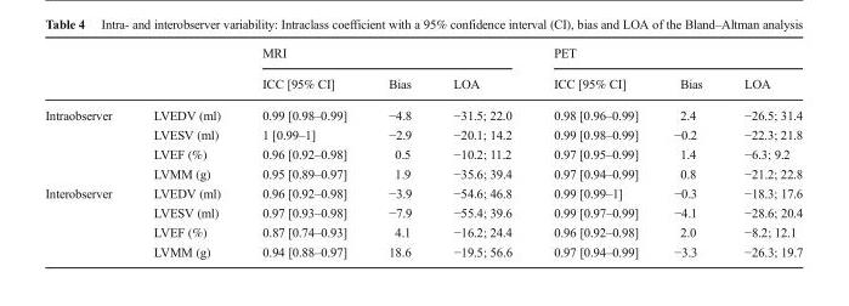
<table><thead><tr><td rowspan="2"></td><td rowspan="2"></td><td colspan="3">MRI</td><td colspan="3">PET</td></tr><tr><td>ICC [95% CI]</td><td>Bias</td><td>LOA</td><td>ICC [95% CI]</td><td>Bias</td><td>LOA</td></tr></thead><tbody><tr><td rowspan="4">Intraobserver</td><td>LVEDV (ml)</td><td>0.99 [0.98–0.99]</td><td>−4.8</td><td>−31.5; 22.0</td><td>0.98 [0.96–0.99]</td><td>2.4</td><td>−26.5; 31.4</td></tr><tr><td>LVESV (ml)</td><td>1 [0.99–1]</td><td>−2.9</td><td>−20.1; 14.2</td><td>0.99 [0.98–0.99]</td><td>−0.2</td><td>−22.3; 21.8</td></tr><tr><td>LVEF (%)</td><td>0.96 [0.92–0.98]</td><td>0.5</td><td>−10.2; 11.2</td><td>0.97 [0.95–0.99]</td><td>1.4</td><td>−6.3; 9.2</td></tr><tr><td>LVMM (g)</td><td>0.95 [0.89–0.97]</td><td>1.9</td><td>−35.6; 39.4</td><td>0.97 [0.94–0.99]</td><td>0.8</td><td>−21.2; 22.8</td></tr><tr><td rowspan="4">Interobserver</td><td>LVEDV (ml)</td><td>0.96 [0.92–0.98]</td><td>−3.9</td><td>−54.6; 46.8</td><td>0.99 [0.99–1]</td><td>−0.3</td><td>−18.3; 17.6</td></tr><tr><td>LVESV (ml)</td><td>0.97 [0.93–0.98]</td><td>−7.9</td><td>−55.4; 39.6</td><td>0.99 [0.97–0.99]</td><td>−4.1</td><td>−28.6; 20.4</td></tr><tr><td>LVEF (%)</td><td>0.87 [0.74–0.93]</td><td>4.1</td><td>−16.2; 24.4</td><td>0.96 [0.92–0.98]</td><td>2.0</td><td>−8.2; 12.1</td></tr><tr><td>LVMM (g)</td><td>0.94 [0.88–0.97]</td><td>18.6</td><td>−19.5; 56.6</td><td>0.97 [0.94–0.99]</td><td>−3.3</td><td>−26.3; 19.7</td></tr></tbody></table>